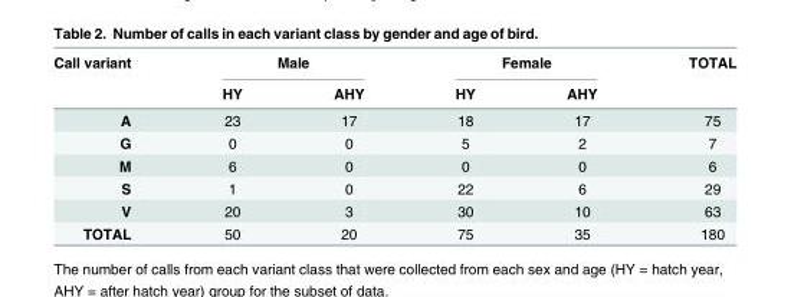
<table><thead><tr><td rowspan="2">Call variant</td><td colspan="2">Male</td><td colspan="2">Female</td><td rowspan="2">TOTAL</td></tr><tr><td>HY</td><td>AHY</td><td>HY</td><td>AHY</td></tr></thead><tbody><tr><td>A</td><td>23</td><td>17</td><td>18</td><td>17</td><td>75</td></tr><tr><td>G</td><td>0</td><td>0</td><td>5</td><td>2</td><td>7</td></tr><tr><td>M</td><td>6</td><td>0</td><td>0</td><td>0</td><td>6</td></tr><tr><td>S</td><td>1</td><td>0</td><td>22</td><td>6</td><td>29</td></tr><tr><td>V</td><td>20</td><td>3</td><td>30</td><td>10</td><td>63</td></tr><tr><td>TOTAL</td><td>50</td><td>20</td><td>75</td><td>35</td><td>180</td></tr></tbody></table>